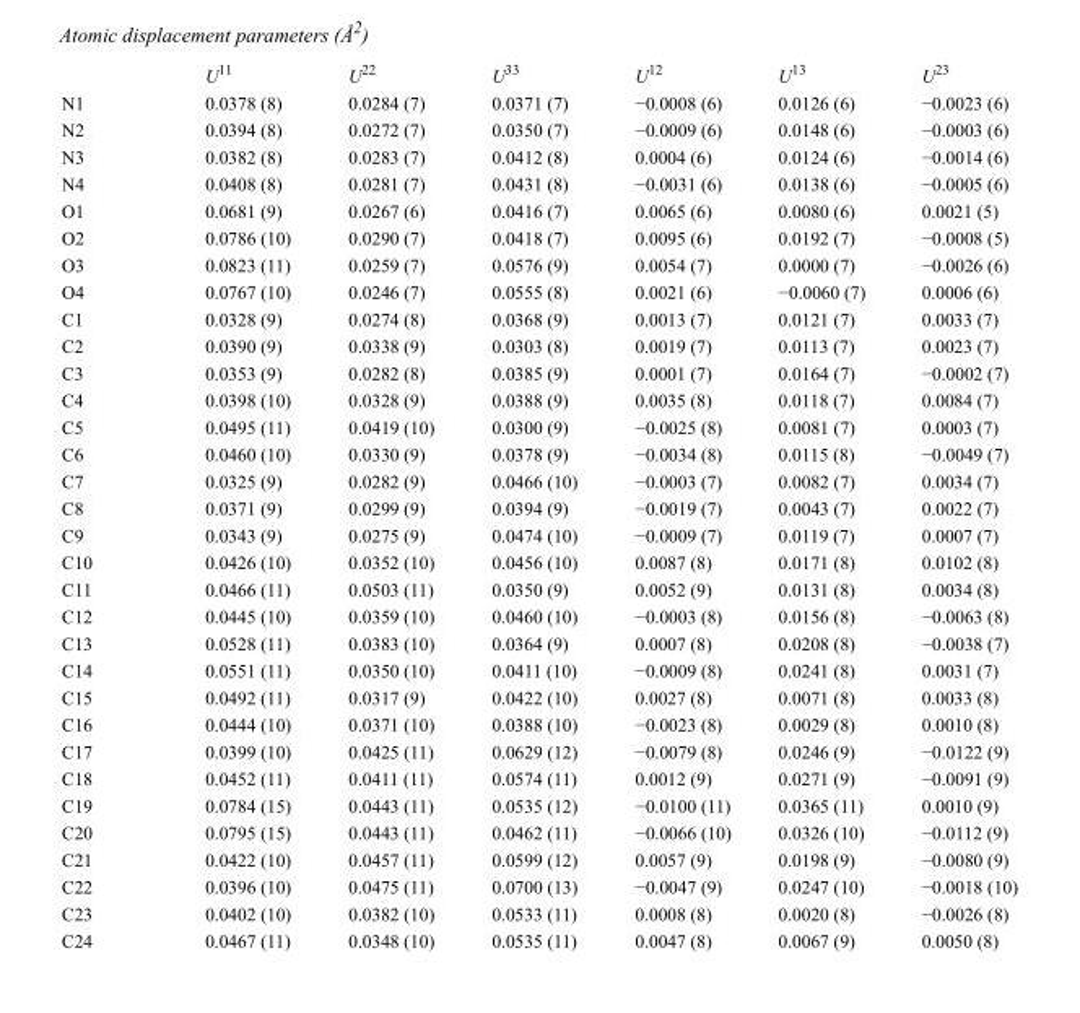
<table><thead><tr><td></td><td>U<sup>11</sup></td><td>U<sup>22</sup></td><td>U<sup>33</sup></td><td>U<sup>12</sup></td><td>U<sup>13</sup></td><td>U<sup>23</sup></td></tr></thead><tbody><tr><td>N1</td><td>0.0378 (8)</td><td>0.0284 (7)</td><td>0.0371 (7)</td><td>−0.0008 (6)</td><td>0.0126 (6)</td><td>−0.0023 (6)</td></tr><tr><td>N2</td><td>0.0394 (8)</td><td>0.0272 (7)</td><td>0.0350 (7)</td><td>−0.0009 (6)</td><td>0.0148 (6)</td><td>−0.0003 (6)</td></tr><tr><td>N3</td><td>0.0382 (8)</td><td>0.0283 (7)</td><td>0.0412 (8)</td><td>0.0004 (6)</td><td>0.0124 (6)</td><td>−0.0014 (6)</td></tr><tr><td>N4</td><td>0.0408 (8)</td><td>0.0281 (7)</td><td>0.0431 (8)</td><td>−0.0031 (6)</td><td>0.0138 (6)</td><td>−0.0005 (6)</td></tr><tr><td>O1</td><td>0.0681 (9)</td><td>0.0267 (6)</td><td>0.0416 (7)</td><td>0.0065 (6)</td><td>0.0080 (6)</td><td>0.0021 (5)</td></tr><tr><td>O2</td><td>0.0786 (10)</td><td>0.0290 (7)</td><td>0.0418 (7)</td><td>0.0095 (6)</td><td>0.0192 (7)</td><td>−0.0008 (5)</td></tr><tr><td>O3</td><td>0.0823 (11)</td><td>0.0259 (7)</td><td>0.0576 (9)</td><td>0.0054 (7)</td><td>0.0000 (7)</td><td>−0.0026 (6)</td></tr><tr><td>O4</td><td>0.0767 (10)</td><td>0.0246 (7)</td><td>0.0555 (8)</td><td>0.0021 (6)</td><td>−0.0060 (7)</td><td>0.0006 (6)</td></tr><tr><td>C1</td><td>0.0328 (9)</td><td>0.0274 (8)</td><td>0.0368 (9)</td><td>0.0013 (7)</td><td>0.0121 (7)</td><td>0.0033 (7)</td></tr><tr><td>C2</td><td>0.0390 (9)</td><td>0.0338 (9)</td><td>0.0303 (8)</td><td>0.0019 (7)</td><td>0.0113 (7)</td><td>0.0023 (7)</td></tr><tr><td>C3</td><td>0.0353 (9)</td><td>0.0282 (8)</td><td>0.0385 (9)</td><td>0.0001 (7)</td><td>0.0164 (7)</td><td>−0.0002 (7)</td></tr><tr><td>C4</td><td>0.0398 (10)</td><td>0.0328 (9)</td><td>0.0388 (9)</td><td>0.0035 (8)</td><td>0.0118 (7)</td><td>0.0084 (7)</td></tr><tr><td>C5</td><td>0.0495 (11)</td><td>0.0419 (10)</td><td>0.0300 (9)</td><td>−0.0025 (8)</td><td>0.0081 (7)</td><td>0.0003 (7)</td></tr><tr><td>C6</td><td>0.0460 (10)</td><td>0.0330 (9)</td><td>0.0378 (9)</td><td>−0.0034 (8)</td><td>0.0115 (8)</td><td>−0.0049 (7)</td></tr><tr><td>C7</td><td>0.0325 (9)</td><td>0.0282 (9)</td><td>0.0466 (10)</td><td>−0.0003 (7)</td><td>0.0082 (7)</td><td>0.0034 (7)</td></tr><tr><td>C8</td><td>0.0371 (9)</td><td>0.0299 (9)</td><td>0.0394 (9)</td><td>−0.0019 (7)</td><td>0.0043 (7)</td><td>0.0022 (7)</td></tr><tr><td>C9</td><td>0.0343 (9)</td><td>0.0275 (9)</td><td>0.0474 (10)</td><td>−0.0009 (7)</td><td>0.0119 (7)</td><td>0.0007 (7)</td></tr><tr><td>C10</td><td>0.0426 (10)</td><td>0.0352 (10)</td><td>0.0456 (10)</td><td>0.0087 (8)</td><td>0.0171 (8)</td><td>0.0102 (8)</td></tr><tr><td>C11</td><td>0.0466 (11)</td><td>0.0503 (11)</td><td>0.0350 (9)</td><td>0.0052 (9)</td><td>0.0131 (8)</td><td>0.0034 (8)</td></tr><tr><td>C12</td><td>0.0445 (10)</td><td>0.0359 (10)</td><td>0.0460 (10)</td><td>−0.0003 (8)</td><td>0.0156 (8)</td><td>−0.0063 (8)</td></tr><tr><td>C13</td><td>0.0528 (11)</td><td>0.0383 (10)</td><td>0.0364 (9)</td><td>0.0007 (8)</td><td>0.0208 (8)</td><td>−0.0038 (7)</td></tr><tr><td>C14</td><td>0.0551 (11)</td><td>0.0350 (10)</td><td>0.0411 (10)</td><td>−0.0009 (8)</td><td>0.0241 (8)</td><td>0.0031 (7)</td></tr><tr><td>C15</td><td>0.0492 (11)</td><td>0.0317 (9)</td><td>0.0422 (10)</td><td>0.0027 (8)</td><td>0.0071 (8)</td><td>0.0033 (8)</td></tr><tr><td>C16</td><td>0.0444 (10)</td><td>0.0371 (10)</td><td>0.0388 (10)</td><td>−0.0023 (8)</td><td>0.0029 (8)</td><td>0.0010 (8)</td></tr><tr><td>C17</td><td>0.0399 (10)</td><td>0.0425 (11)</td><td>0.0629 (12)</td><td>−0.0079 (8)</td><td>0.0246 (9)</td><td>−0.0122 (9)</td></tr><tr><td>C18</td><td>0.0452 (11)</td><td>0.0411 (11)</td><td>0.0574 (11)</td><td>0.0012 (9)</td><td>0.0271 (9)</td><td>−0.0091 (9)</td></tr><tr><td>C19</td><td>0.0784 (15)</td><td>0.0443 (11)</td><td>0.0535 (12)</td><td>−0.0100 (11)</td><td>0.0365 (11)</td><td>0.0010 (9)</td></tr><tr><td>C20</td><td>0.0795 (15)</td><td>0.0443 (11)</td><td>0.0462 (11)</td><td>−0.0066 (10)</td><td>0.0326 (10)</td><td>−0.0112 (9)</td></tr><tr><td>C21</td><td>0.0422 (10)</td><td>0.0457 (11)</td><td>0.0599 (12)</td><td>0.0057 (9)</td><td>0.0198 (9)</td><td>−0.0080 (9)</td></tr><tr><td>C22</td><td>0.0396 (10)</td><td>0.0475 (11)</td><td>0.0700 (13)</td><td>−0.0047 (9)</td><td>0.0247 (10)</td><td>−0.0018 (10)</td></tr><tr><td>C23</td><td>0.0402 (10)</td><td>0.0382 (10)</td><td>0.0533 (11)</td><td>0.0008 (8)</td><td>0.0020 (8)</td><td>−0.0026 (8)</td></tr><tr><td>C24</td><td>0.0467 (11)</td><td>0.0348 (10)</td><td>0.0535 (11)</td><td>0.0047 (8)</td><td>0.0067 (9)</td><td>0.0050 (8)</td></tr></tbody></table>